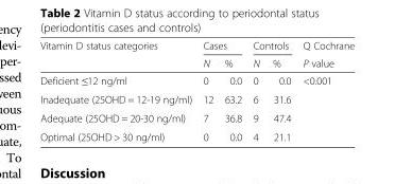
<table><thead><tr><td rowspan="2">Vitamin D status categories</td><td colspan="2">Cases</td><td colspan="2">Controls</td><td rowspan="2">Q Cochrane P value</td></tr><tr><td>N</td><td>%</td><td>N</td><td>%</td></tr></thead><tbody><tr><td>Deficient ≤12 ng/ml</td><td>0</td><td>0.0</td><td>0</td><td>0.0</td><td rowspan="4">&lt;0.001</td></tr><tr><td>Inadequate (25OHD = 12-19 ng/ml)</td><td>12</td><td>63.2</td><td>6</td><td>31.6</td></tr><tr><td>Adequate (25OHD = 20-30 ng/ml)</td><td>7</td><td>36.8</td><td>9</td><td>47.4</td></tr><tr><td>Optimal (25OHD &gt; 30 ng/ml)</td><td>0</td><td>0.0</td><td>4</td><td>21.1</td></tr></tbody></table>